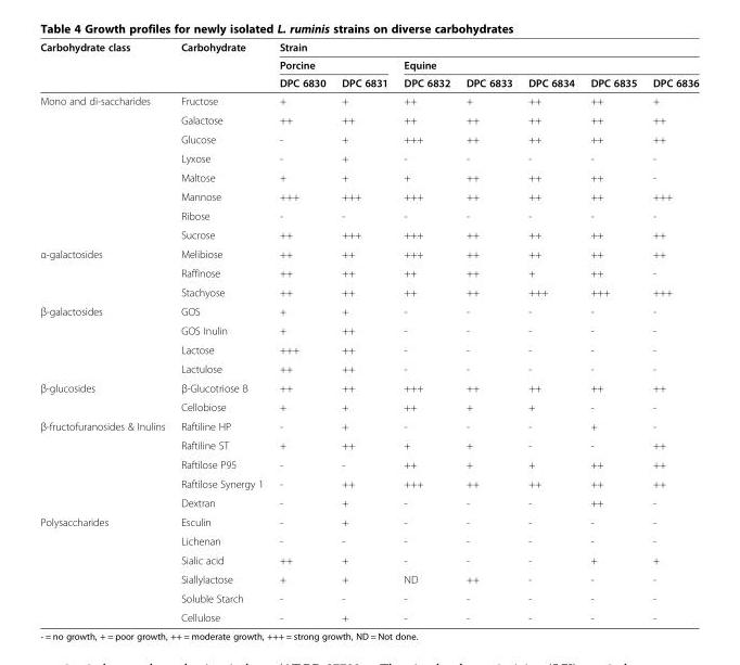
<table><thead><tr><td rowspan="3">Carbohydrate class</td><td rowspan="3">Carbohydrate</td><td colspan="7">Strain</td></tr><tr><td colspan="2">Porcine</td><td colspan="5">Equine</td></tr><tr><td>DPC 6830</td><td>DPC 6831</td><td>DPC 6832</td><td>DPC 6833</td><td>DPC 6834</td><td>DPC 6835</td><td>DPC 6836</td></tr></thead><tbody><tr><td rowspan="8">Mono and di-saccharides</td><td>Fructose</td><td>+</td><td>+</td><td>++</td><td>+</td><td>++</td><td>++</td><td>+</td></tr><tr><td>Galactose</td><td>++</td><td>++</td><td>++</td><td>++</td><td>++</td><td>++</td><td>++</td></tr><tr><td>Glucose</td><td>-</td><td>+</td><td>+++</td><td>++</td><td>++</td><td>++</td><td>++</td></tr><tr><td>Lyxose</td><td>-</td><td>+</td><td>-</td><td>-</td><td>-</td><td>-</td><td>-</td></tr><tr><td>Maltose</td><td>+</td><td>+</td><td>+</td><td>++</td><td>++</td><td>++</td><td>-</td></tr><tr><td>Mannose</td><td>+++</td><td>+++</td><td>+++</td><td>++</td><td>++</td><td>++</td><td>+++</td></tr><tr><td>Ribose</td><td>-</td><td>-</td><td>-</td><td>-</td><td>-</td><td>-</td><td>-</td></tr><tr><td>Sucrose</td><td>++</td><td>+++</td><td>+++</td><td>++</td><td>++</td><td>++</td><td>++</td></tr><tr><td rowspan="3">α-galactosides</td><td>Melibiose</td><td>++</td><td>++</td><td>+++</td><td>++</td><td>++</td><td>++</td><td>++</td></tr><tr><td>Raffinose</td><td>++</td><td>++</td><td>++</td><td>++</td><td>+</td><td>++</td><td>-</td></tr><tr><td>Stachyose</td><td>++</td><td>++</td><td>++</td><td>++</td><td>+++</td><td>+++</td><td>+++</td></tr><tr><td rowspan="4">β-galactosides</td><td>GOS</td><td>+</td><td>+</td><td>-</td><td>-</td><td>-</td><td>-</td><td>-</td></tr><tr><td>GOS Inulin</td><td>+</td><td>++</td><td>-</td><td>-</td><td>-</td><td>-</td><td>-</td></tr><tr><td>Lactose</td><td>+++</td><td>++</td><td>-</td><td>-</td><td>-</td><td>-</td><td>-</td></tr><tr><td>Lactulose</td><td>++</td><td>++</td><td>-</td><td>-</td><td>-</td><td>-</td><td>-</td></tr><tr><td rowspan="2">β-glucosides</td><td>β-Glucotriose B</td><td>++</td><td>++</td><td>+++</td><td>++</td><td>++</td><td>++</td><td>++</td></tr><tr><td>Cellobiose</td><td>+</td><td>+</td><td>++</td><td>+</td><td>+</td><td>-</td><td>-</td></tr><tr><td rowspan="5">β-fructofuranosides &amp; Inulins</td><td>Raftiline HP</td><td>-</td><td>+</td><td>-</td><td>-</td><td>-</td><td>+</td><td>-</td></tr><tr><td>Raftiline ST</td><td>+</td><td>++</td><td>+</td><td>+</td><td>-</td><td>-</td><td>++</td></tr><tr><td>Raftilose P95</td><td>-</td><td>-</td><td>++</td><td>+</td><td>+</td><td>++</td><td>++</td></tr><tr><td>Raftilose Synergy 1</td><td>-</td><td>++</td><td>+++</td><td>++</td><td>++</td><td>++</td><td>++</td></tr><tr><td>Dextran</td><td>-</td><td>+</td><td>-</td><td>-</td><td>-</td><td>++</td><td>-</td></tr><tr><td rowspan="6">Polysaccharides</td><td>Esculin</td><td>-</td><td>+</td><td>-</td><td>-</td><td>-</td><td>-</td><td>-</td></tr><tr><td>Lichenan</td><td>-</td><td>-</td><td>-</td><td>-</td><td>-</td><td>-</td><td>-</td></tr><tr><td>Sialic acid</td><td>++</td><td>+</td><td>-</td><td>-</td><td>-</td><td>+</td><td>+</td></tr><tr><td>Siallylactose</td><td>+</td><td>+</td><td>ND</td><td>++</td><td>-</td><td>-</td><td>-</td></tr><tr><td>Soluble Starch</td><td>-</td><td>-</td><td>-</td><td>-</td><td>-</td><td>-</td><td>-</td></tr><tr><td>Cellulose</td><td>-</td><td>+</td><td>-</td><td>-</td><td>-</td><td>-</td><td>-</td></tr></tbody></table>